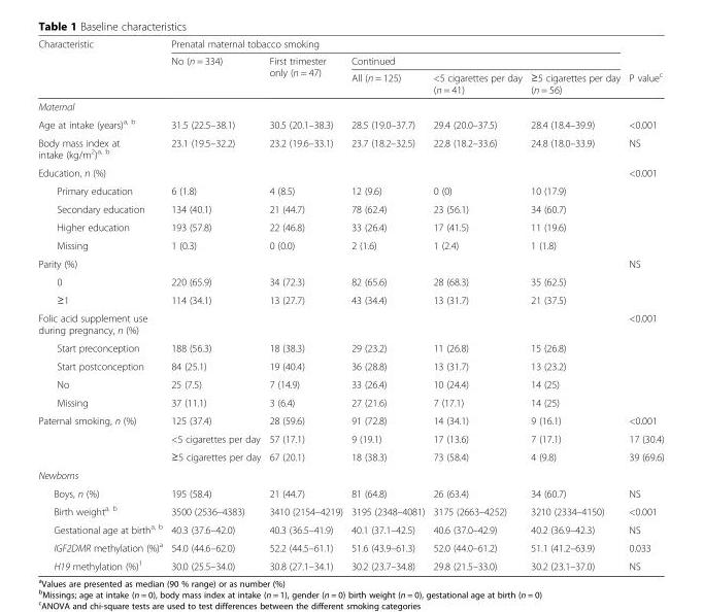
<table><thead><tr><td rowspan="3">Characteristic</td><td colspan="5">Prenatal maternal tobacco smoking</td><td rowspan="3">P value<sup>c</sup></td></tr><tr><td rowspan="2">No (n = 334)</td><td rowspan="2">First trimester only (n = 47)</td><td colspan="3">Continued</td></tr><tr><td>All (n = 125)</td><td>&lt;5 cigarettes per day (n = 41)</td><td>≥5 cigarettes per day (n = 56)</td></tr></thead><tbody><tr><td colspan="7">Maternal</td></tr><tr><td>Age at intake (years)<sup>a, b</sup></td><td>31.5 (22.5–38.1)</td><td>30.5 (20.1–38.3)</td><td>28.5 (19.0–37.7)</td><td>29.4 (20.0–37.5)</td><td>28.4 (18.4–39.9)</td><td>&lt;0.001</td></tr><tr><td>Body mass index at intake (kg/m<sup>2</sup>)<sup>a, b</sup></td><td>23.1 (19.5–32.2)</td><td>23.2 (19.6–33.1)</td><td>23.7 (18.2–32.5)</td><td>22.8 (18.2–33.6)</td><td>24.8 (18.0–33.9)</td><td>NS</td></tr><tr><td>Education, n (%)</td><td></td><td></td><td></td><td></td><td></td><td>&lt;0.001</td></tr><tr><td>Primary education</td><td>6 (1.8)</td><td>4 (8.5)</td><td>12 (9.6)</td><td>0 (0)</td><td>10 (17.9)</td><td></td></tr><tr><td>Secondary education</td><td>134 (40.1)</td><td>21 (44.7)</td><td>78 (62.4)</td><td>23 (56.1)</td><td>34 (60.7)</td><td></td></tr><tr><td>Higher education</td><td>193 (57.8)</td><td>22 (46.8)</td><td>33 (26.4)</td><td>17 (41.5)</td><td>11 (19.6)</td><td></td></tr><tr><td>Missing</td><td>1 (0.3)</td><td>0 (0.0)</td><td>2 (1.6)</td><td>1 (2.4)</td><td>1 (1.8)</td><td></td></tr><tr><td>Parity (%)</td><td></td><td></td><td></td><td></td><td></td><td>NS</td></tr><tr><td>0</td><td>220 (65.9)</td><td>34 (72.3)</td><td>82 (65.6)</td><td>28 (68.3)</td><td>35 (62.5)</td><td></td></tr><tr><td>≥1</td><td>114 (34.1)</td><td>13 (27.7)</td><td>43 (34.4)</td><td>13 (31.7)</td><td>21 (37.5)</td><td></td></tr><tr><td>Folic acid supplement use during pregnancy, n (%)</td><td></td><td></td><td></td><td></td><td></td><td>&lt;0.001</td></tr><tr><td>Start preconception</td><td>188 (56.3)</td><td>18 (38.3)</td><td>29 (23.2)</td><td>11 (26.8)</td><td>15 (26.8)</td><td></td></tr><tr><td>Start postconception</td><td>84 (25.1)</td><td>19 (40.4)</td><td>36 (28.8)</td><td>13 (31.7)</td><td>13 (23.2)</td><td></td></tr><tr><td>No</td><td>25 (7.5)</td><td>7 (14.9)</td><td>33 (26.4)</td><td>10 (24.4)</td><td>14 (25)</td><td></td></tr><tr><td>Missing</td><td>37 (11.1)</td><td>3 (6.4)</td><td>27 (21.6)</td><td>7 (17.1)</td><td>14 (25)</td><td></td></tr><tr><td rowspan="3">Paternal smoking, n (%)</td><td>125 (37.4)</td><td>28 (59.6)</td><td>91 (72.8)</td><td>14 (34.1)</td><td>9 (16.1)</td><td>&lt;0.001</td></tr><tr><td>&lt;5 cigarettes per day</td><td>57 (17.1)</td><td>9 (19.1)</td><td>17 (13.6)</td><td>7 (17.1)</td><td>17 (30.4)</td></tr><tr><td>≥5 cigarettes per day</td><td>67 (20.1)</td><td>18 (38.3)</td><td>73 (58.4)</td><td>4 (9.8)</td><td>39 (69.6)</td></tr><tr><td colspan="7">Newborns</td></tr><tr><td>Boys, n (%)</td><td>195 (58.4)</td><td>21 (44.7)</td><td>81 (64.8)</td><td>26 (63.4)</td><td>34 (60.7)</td><td>NS</td></tr><tr><td>Birth weight<sup>a, b</sup></td><td>3500 (2536–4383)</td><td>3410 (2154–4219)</td><td>3195 (2348–4081)</td><td>3175 (2663–4252)</td><td>3210 (2334–4150)</td><td>&lt;0.001</td></tr><tr><td>Gestational age at birth<sup>a, b</sup></td><td>40.3 (37.6–42.0)</td><td>40.3 (36.5–41.9)</td><td>40.1 (37.1–42.5)</td><td>40.6 (37.0–42.9)</td><td>40.2 (36.9–42.3)</td><td>NS</td></tr><tr><td>IGF2DMR methylation (%)<sup>a</sup></td><td>54.0 (44.6–62.0)</td><td>52.2 (44.5–61.1)</td><td>51.6 (43.9–61.3)</td><td>52.0 (44.0–61.2)</td><td>51.1 (41.2–63.9)</td><td>0.033</td></tr><tr><td>H19 methylation (%)<sup>1</sup></td><td>30.0 (25.5–34.0)</td><td>30.8 (27.1–34.1)</td><td>30.2 (23.7–34.8)</td><td>29.8 (21.5–33.0)</td><td>30.2 (23.1–37.0)</td><td>NS</td></tr></tbody></table>